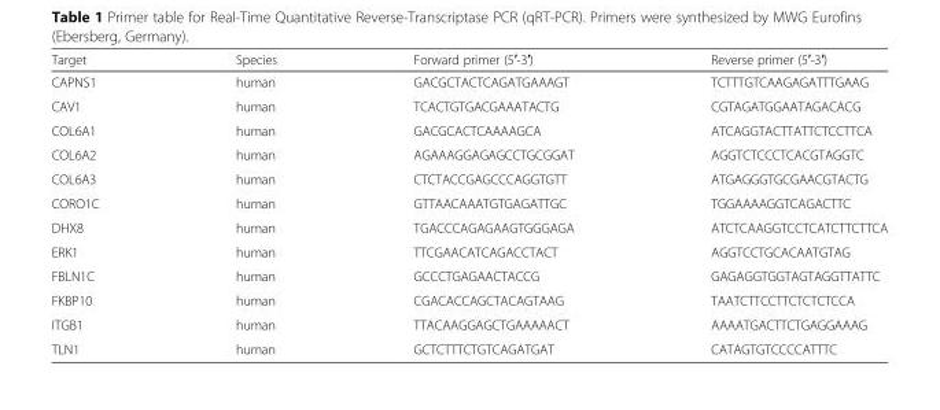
<table><thead><tr><td>Target</td><td>Species</td><td>Forward primer (5′-3′)</td><td>Reverse primer (5′-3′)</td></tr></thead><tbody><tr><td>CAPNS1</td><td>human</td><td>GACGCTACTCAGATGAAAGT</td><td>TCTTTGTCAAGAGATTTGAAG</td></tr><tr><td>CAV1</td><td>human</td><td>TCACTGTGACGAAATACTG</td><td>CGTAGATGGAATAGACACG</td></tr><tr><td>COL6A1</td><td>human</td><td>GACGCACTCAAAAGCA</td><td>ATCAGGTACTTATTCTCCTTCA</td></tr><tr><td>COL6A2</td><td>human</td><td>AGAAAGGAGAGCCTGCGGAT</td><td>AGGTCTCCCTCACGTAGGTC</td></tr><tr><td>COL6A3</td><td>human</td><td>CTCTACCGAGCCCAGGTGTT</td><td>ATGAGGGTGCGAACGTACTG</td></tr><tr><td>CORO1C</td><td>human</td><td>GTTAACAAATGTGAGATTGC</td><td>TGGAAAAGGTCAGACTTC</td></tr><tr><td>DHX8</td><td>human</td><td>TGACCCAGAGAAGTGGGAGA</td><td>ATCTCAAGGTCCTCATCTTCTTCA</td></tr><tr><td>ERK1</td><td>human</td><td>TTCGAACATCAGACCTACT</td><td>AGGTCCTGCACAATGTAG</td></tr><tr><td>FBLN1C</td><td>human</td><td>GCCCTGAGAACTACCG</td><td>GAGAGGTGGTAGTAGGTTATTC</td></tr><tr><td>FKBP10</td><td>human</td><td>CGACACCAGCTACAGTAAG</td><td>TAATCTTCCTTCTCTCTCCA</td></tr><tr><td>ITGB1</td><td>human</td><td>TTACAAGGAGCTGAAAAACT</td><td>AAAATGACTTCTGAGGAAAG</td></tr><tr><td>TLN1</td><td>human</td><td>GCTCTTTCTGTCAGATGAT</td><td>CATAGTGTCCCCATTTC</td></tr></tbody></table>